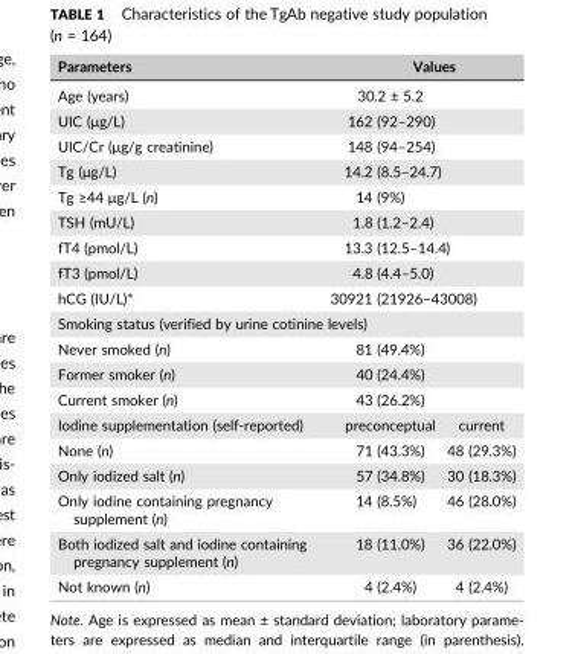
<table><thead><tr><td rowspan="2">Parameters Age (years)</td><td colspan="2">Values</td></tr><tr><td>30.2 ± 5.2</td><td></td></tr></thead><tbody><tr><td>UIC (μg/L)</td><td colspan="2">162 (92–290)</td></tr><tr><td>UIC/Cr (μg/g creatinine)</td><td colspan="2">148 (94–254)</td></tr><tr><td>Tg (μg/L)</td><td colspan="2">14.2 (8.5–24.7)</td></tr><tr><td>Tg ≥44 μg/L (n)</td><td colspan="2">14 (9%)</td></tr><tr><td>TSH (mU/L)</td><td colspan="2">1.8 (1.2–2.4)</td></tr><tr><td>fT4 (pmol/L)</td><td colspan="2">13.3 (12.5–14.4)</td></tr><tr><td>fT3 (pmol/L)</td><td colspan="2">4.8 (4.4–5.0)</td></tr><tr><td>hCG (IU/L)*</td><td colspan="2">30921 (21926–43008)</td></tr><tr><td colspan="3">Smoking status (verified by urine cotinine levels)</td></tr><tr><td>Never smoked (n)</td><td colspan="2">81 (49.4%)</td></tr><tr><td>Former smoker (n)</td><td colspan="2">40 (24.4%)</td></tr><tr><td>Current smoker (n)</td><td colspan="2">43 (26.2%)</td></tr><tr><td>Iodine supplementation (self‐reported)</td><td>preconceptual</td><td>current</td></tr><tr><td>None (n)</td><td>71 (43.3%)</td><td>48 (29.3%)</td></tr><tr><td>Only iodized salt (n)</td><td>57 (34.8%)</td><td>30 (18.3%)</td></tr><tr><td>Only iodine containing pregnancy supplement (n)</td><td>14 (8.5%)</td><td>46 (28.0%)</td></tr><tr><td>Both iodized salt and iodine containing pregnancy supplement (n)</td><td>18 (11.0%)</td><td>36 (22.0%)</td></tr><tr><td>Not known (n)</td><td>4 (2.4%)</td><td>4 (2.4%)</td></tr></tbody></table>